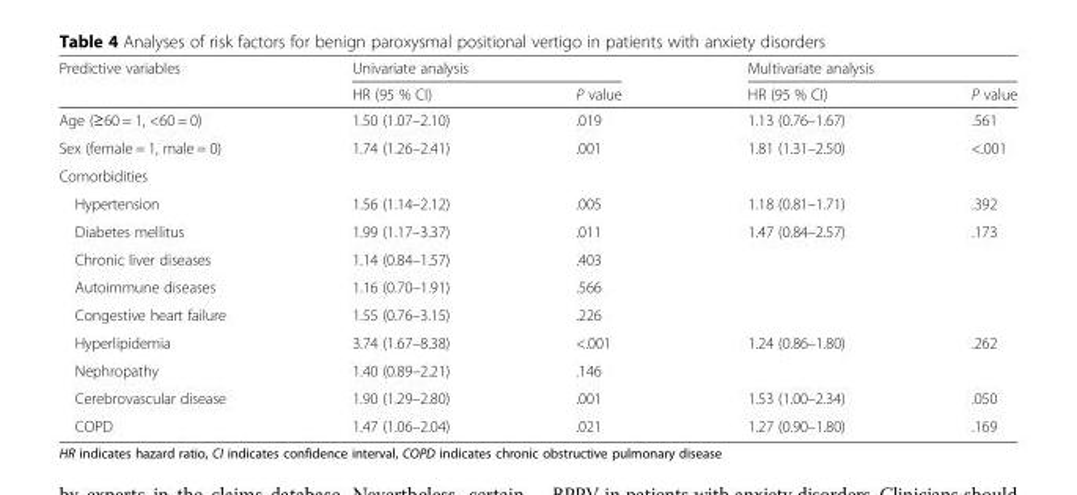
<table><thead><tr><td rowspan="2">Predictive variables</td><td colspan="2">Univariate analysis</td><td colspan="2">Multivariate analysis</td></tr><tr><td>HR (95 % CI)</td><td>P value</td><td>HR (95 % CI)</td><td>P value</td></tr></thead><tbody><tr><td>Age (≥60 = 1, &lt;60 = 0)</td><td>1.50 (1.07–2.10)</td><td>.019</td><td>1.13 (0.76–1.67)</td><td>.561</td></tr><tr><td>Sex (female = 1, male = 0)</td><td>1.74 (1.26–2.41)</td><td>.001</td><td>1.81 (1.31–2.50)</td><td>&lt;.001</td></tr><tr><td colspan="5">Comorbidities</td></tr><tr><td>Hypertension</td><td>1.56 (1.14–2.12)</td><td>.005</td><td>1.18 (0.81–1.71)</td><td>.392</td></tr><tr><td>Diabetes mellitus</td><td>1.99 (1.17–3.37)</td><td>.011</td><td>1.47 (0.84–2.57)</td><td>.173</td></tr><tr><td>Chronic liver diseases</td><td>1.14 (0.84–1.57)</td><td>.403</td><td></td><td></td></tr><tr><td>Autoimmune diseases</td><td>1.16 (0.70–1.91)</td><td>.566</td><td></td><td></td></tr><tr><td>Congestive heart failure</td><td>1.55 (0.76–3.15)</td><td>.226</td><td></td><td></td></tr><tr><td>Hyperlipidemia</td><td>3.74 (1.67–8.38)</td><td>&lt;.001</td><td>1.24 (0.86–1.80)</td><td>.262</td></tr><tr><td>Nephropathy</td><td>1.40 (0.89–2.21)</td><td>.146</td><td></td><td></td></tr><tr><td>Cerebrovascular disease</td><td>1.90 (1.29–2.80)</td><td>.001</td><td>1.53 (1.00–2.34)</td><td>.050</td></tr><tr><td>COPD</td><td>1.47 (1.06–2.04)</td><td>.021</td><td>1.27 (0.90–1.80)</td><td>.169</td></tr></tbody></table>